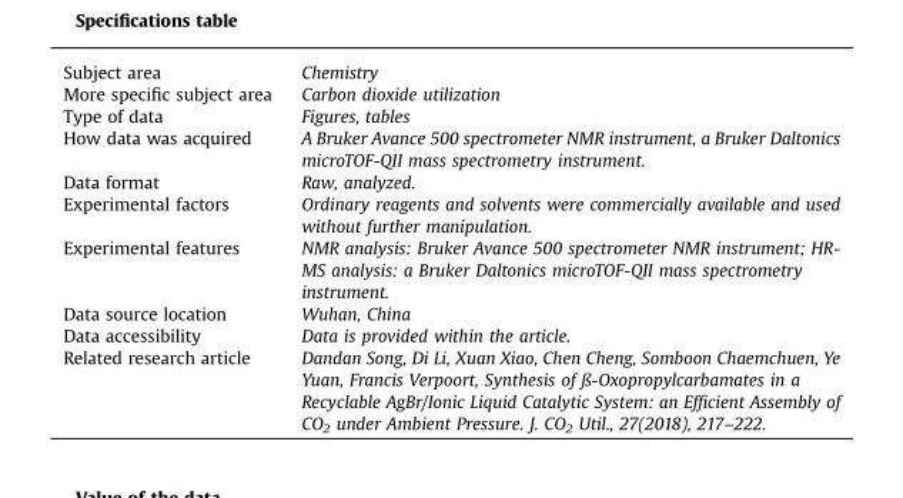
<table><tbody><tr><td>Subject area</td><td>Chemistry</td></tr><tr><td>More specific subject area</td><td>Carbon dioxide utilization</td></tr><tr><td>Type of data</td><td>Figures, tables</td></tr><tr><td>How data was acquired</td><td>A Bruker Avance 500 spectrometer NMR instrument, a Bruker Daltonics microTOF-QII mass spectrometry instrument.</td></tr><tr><td>Data format</td><td>Raw, analyzed.</td></tr><tr><td>Experimental factors</td><td>Ordinary reagents and solvents were commercially available and used without further manipulation.</td></tr><tr><td>Experimental features</td><td>NMR analysis: Bruker Avance 500 spectrometer NMR instrument; HR- MS analysis: a Bruker Daltonics microTOF-QII mass spectrometry instrument.</td></tr><tr><td>Data source location</td><td>Wuhan, China</td></tr><tr><td>Data accessibility</td><td>Data is provided within the article.</td></tr><tr><td>Related research article</td><td>Dandan Song, Di Li, Xuan Xiao, Chen Cheng, Somboon Chaemchuen, Ye Yuan, Francis Verpoort, Synthesis of ß-Oxopropylcarbamates in a Recyclable AgBr/Ionic Liquid Catalytic System: an Efficient Assembly of CO<sub>2</sub> under Ambient Pressure. J. CO<sub>2</sub> Util., 27(2018), 217–222.</td></tr></tbody></table>